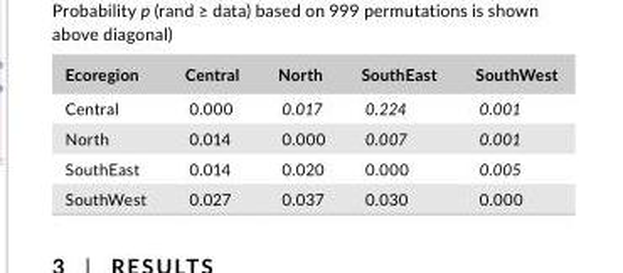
<table><thead><tr><td>Ecoregion</td><td>Central</td><td>North</td><td>SouthEast</td><td>SouthWest</td></tr></thead><tbody><tr><td>Central</td><td>0.000</td><td>0.017</td><td>0.224</td><td>0.001</td></tr><tr><td>North</td><td>0.014</td><td>0.000</td><td>0.007</td><td>0.001</td></tr><tr><td>SouthEast</td><td>0.014</td><td>0.020</td><td>0.000</td><td>0.005</td></tr><tr><td>SouthWest</td><td>0.027</td><td>0.037</td><td>0.030</td><td>0.000</td></tr></tbody></table>